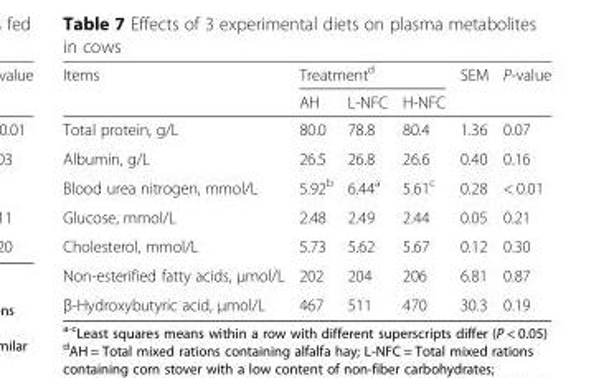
<table><thead><tr><td rowspan="2">Items</td><td colspan="3">Treatment<sup>d</sup></td><td rowspan="2">SEM</td><td rowspan="2">P-value</td></tr><tr><td>AH</td><td>L-NFC</td><td>H-NFC</td></tr></thead><tbody><tr><td>Total protein, g/L</td><td>80.0</td><td>78.8</td><td>80.4</td><td>1.36</td><td>0.07</td></tr><tr><td>Albumin, g/L</td><td>26.5</td><td>26.8</td><td>26.6</td><td>0.40</td><td>0.16</td></tr><tr><td>Blood urea nitrogen, mmol/L</td><td>5.92<sup>b</sup></td><td>6.44<sup>a</sup></td><td>5.61<sup>c</sup></td><td>0.28</td><td>&lt; 0.01</td></tr><tr><td>Glucose, mmol/L</td><td>2.48</td><td>2.49</td><td>2.44</td><td>0.05</td><td>0.21</td></tr><tr><td>Cholesterol, mmol/L</td><td>5.73</td><td>5.62</td><td>5.67</td><td>0.12</td><td>0.30</td></tr><tr><td>Non-esterified fatty acids, μmol/L</td><td>202</td><td>204</td><td>206</td><td>6.81</td><td>0.87</td></tr><tr><td>β-Hydroxybutyric acid, μmol/L</td><td>467</td><td>511</td><td>470</td><td>30.3</td><td>0.19</td></tr></tbody></table>